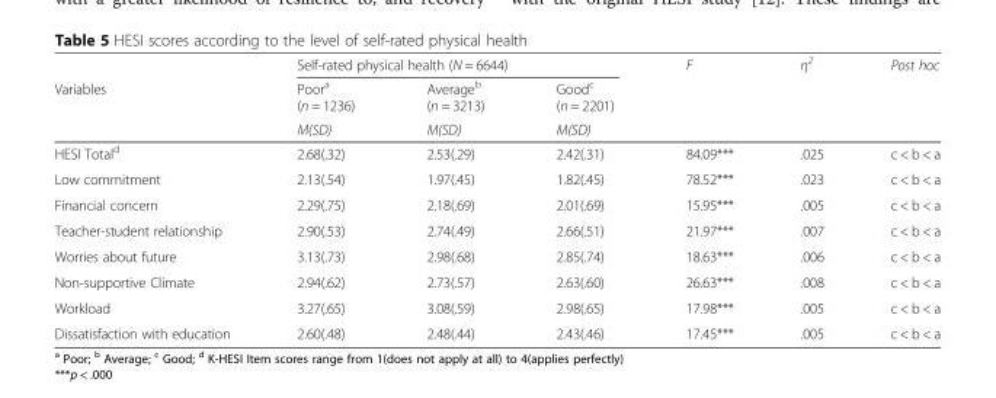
<table><thead><tr><td rowspan="3">Variables</td><td colspan="3">Self-rated physical health (N = 6644)</td><td rowspan="3">F</td><td rowspan="3">η<sup>2</sup></td><td rowspan="3">Post hoc</td></tr><tr><td rowspan="2">Poor<sup>a</sup> (n = 1236) M(SD)</td><td rowspan="2">Average<sup>b</sup> (n = 3213) M(SD)</td><td rowspan="2">Good<sup>c</sup> (n = 2201) M(SD)</td></tr><tr></tr></thead><tbody><tr><td>HESI Total<sup>d</sup></td><td>2.68(.32)</td><td>2.53(.29)</td><td>2.42(.31)</td><td>84.09***</td><td>.025</td><td>c &lt; b &lt; a</td></tr><tr><td>Low commitment</td><td>2.13(.54)</td><td>1.97(.45)</td><td>1.82(.45)</td><td>78.52***</td><td>.023</td><td>c &lt; b &lt; a</td></tr><tr><td>Financial concern</td><td>2.29(.75)</td><td>2.18(.69)</td><td>2.01(.69)</td><td>15.95***</td><td>.005</td><td>c &lt; b &lt; a</td></tr><tr><td>Teacher-student relationship</td><td>2.90(.53)</td><td>2.74(.49)</td><td>2.66(.51)</td><td>21.97***</td><td>.007</td><td>c &lt; b &lt; a</td></tr><tr><td>Worries about future</td><td>3.13(.73)</td><td>2.98(.68)</td><td>2.85(.74)</td><td>18.63***</td><td>.006</td><td>c &lt; b &lt; a</td></tr><tr><td>Non-supportive Climate</td><td>2.94(.62)</td><td>2.73(.57)</td><td>2.63(.60)</td><td>26.63***</td><td>.008</td><td>c &lt; b &lt; a</td></tr><tr><td>Workload</td><td>3.27(.65)</td><td>3.08(.59)</td><td>2.98(.65)</td><td>17.98***</td><td>.005</td><td>c &lt; b &lt; a</td></tr><tr><td>Dissatisfaction with education</td><td>2.60(.48)</td><td>2.48(.44)</td><td>2.43(.46)</td><td>17.45***</td><td>.005</td><td>c &lt; b &lt; a</td></tr></tbody></table>